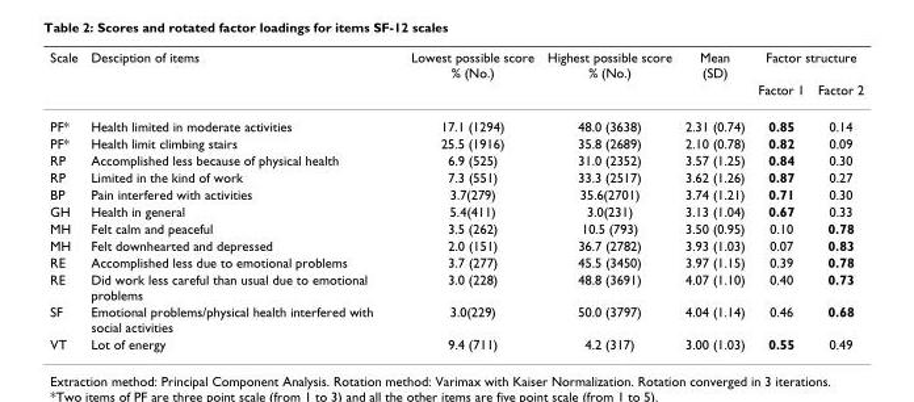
<table><thead><tr><td rowspan="2">Scale</td><td rowspan="2">Desciption of items</td><td rowspan="2">Lowest possible score % (No.)</td><td rowspan="2">Highest possible score % (No.)</td><td rowspan="2">Mean (SD)</td><td colspan="2">Factor structure</td></tr><tr><td>Factor 1</td><td>Factor 2</td></tr></thead><tbody><tr><td>PF*</td><td>Health limited in moderate activities</td><td>17.1 (1294)</td><td>48.0 (3638)</td><td>2.31 (0.74)</td><td>0.85</td><td>0.14</td></tr><tr><td>PF*</td><td>Health limit climbing stairs</td><td>25.5 (1916)</td><td>35.8 (2689)</td><td>2.10 (0.78)</td><td>0.82</td><td>0.09</td></tr><tr><td>RP</td><td>Accomplished less because of physical health</td><td>6.9 (525)</td><td>31.0 (2352)</td><td>3.57 (1.25)</td><td>0.84</td><td>0.30</td></tr><tr><td>RP</td><td>Limited in the kind of work</td><td>7.3 (551)</td><td>33.3 (2517)</td><td>3.62 (1.26)</td><td>0.87</td><td>0.27</td></tr><tr><td>BP</td><td>Pain interfered with activities</td><td>3.7(279)</td><td>35.6(2701)</td><td>3.74 (1.21)</td><td>0.71</td><td>0.30</td></tr><tr><td>GH</td><td>Health in general</td><td>5.4(411)</td><td>3.0(231)</td><td>3.13 (1.04)</td><td>0.67</td><td>0.33</td></tr><tr><td>MH</td><td>Felt calm and peaceful</td><td>3.5 (262)</td><td>10.5 (793)</td><td>3.50 (0.95)</td><td>0.10</td><td>0.78</td></tr><tr><td>MH</td><td>Felt downhearted and depressed</td><td>2.0 (151)</td><td>36.7 (2782)</td><td>3.93 (1.03)</td><td>0.07</td><td>0.83</td></tr><tr><td>RE</td><td>Accomplished less due to emotional problems</td><td>3.7 (277)</td><td>45.5 (3450)</td><td>3.97 (1.15)</td><td>0.39</td><td>0.78</td></tr><tr><td>RE</td><td>Did work less careful than usual due to emotional problems</td><td>3.0 (228)</td><td>48.8 (3691)</td><td>4.07 (1.10)</td><td>0.40</td><td>0.73</td></tr><tr><td>SF</td><td>Emotional problems/physical health interfered with social activities</td><td>3.0(229)</td><td>50.0 (3797)</td><td>4.04 (1.14)</td><td>0.46</td><td>0.68</td></tr><tr><td>VT</td><td>Lot of energy</td><td>9.4 (711)</td><td>4.2 (317)</td><td>3.00 (1.03)</td><td>0.55</td><td>0.49</td></tr></tbody></table>